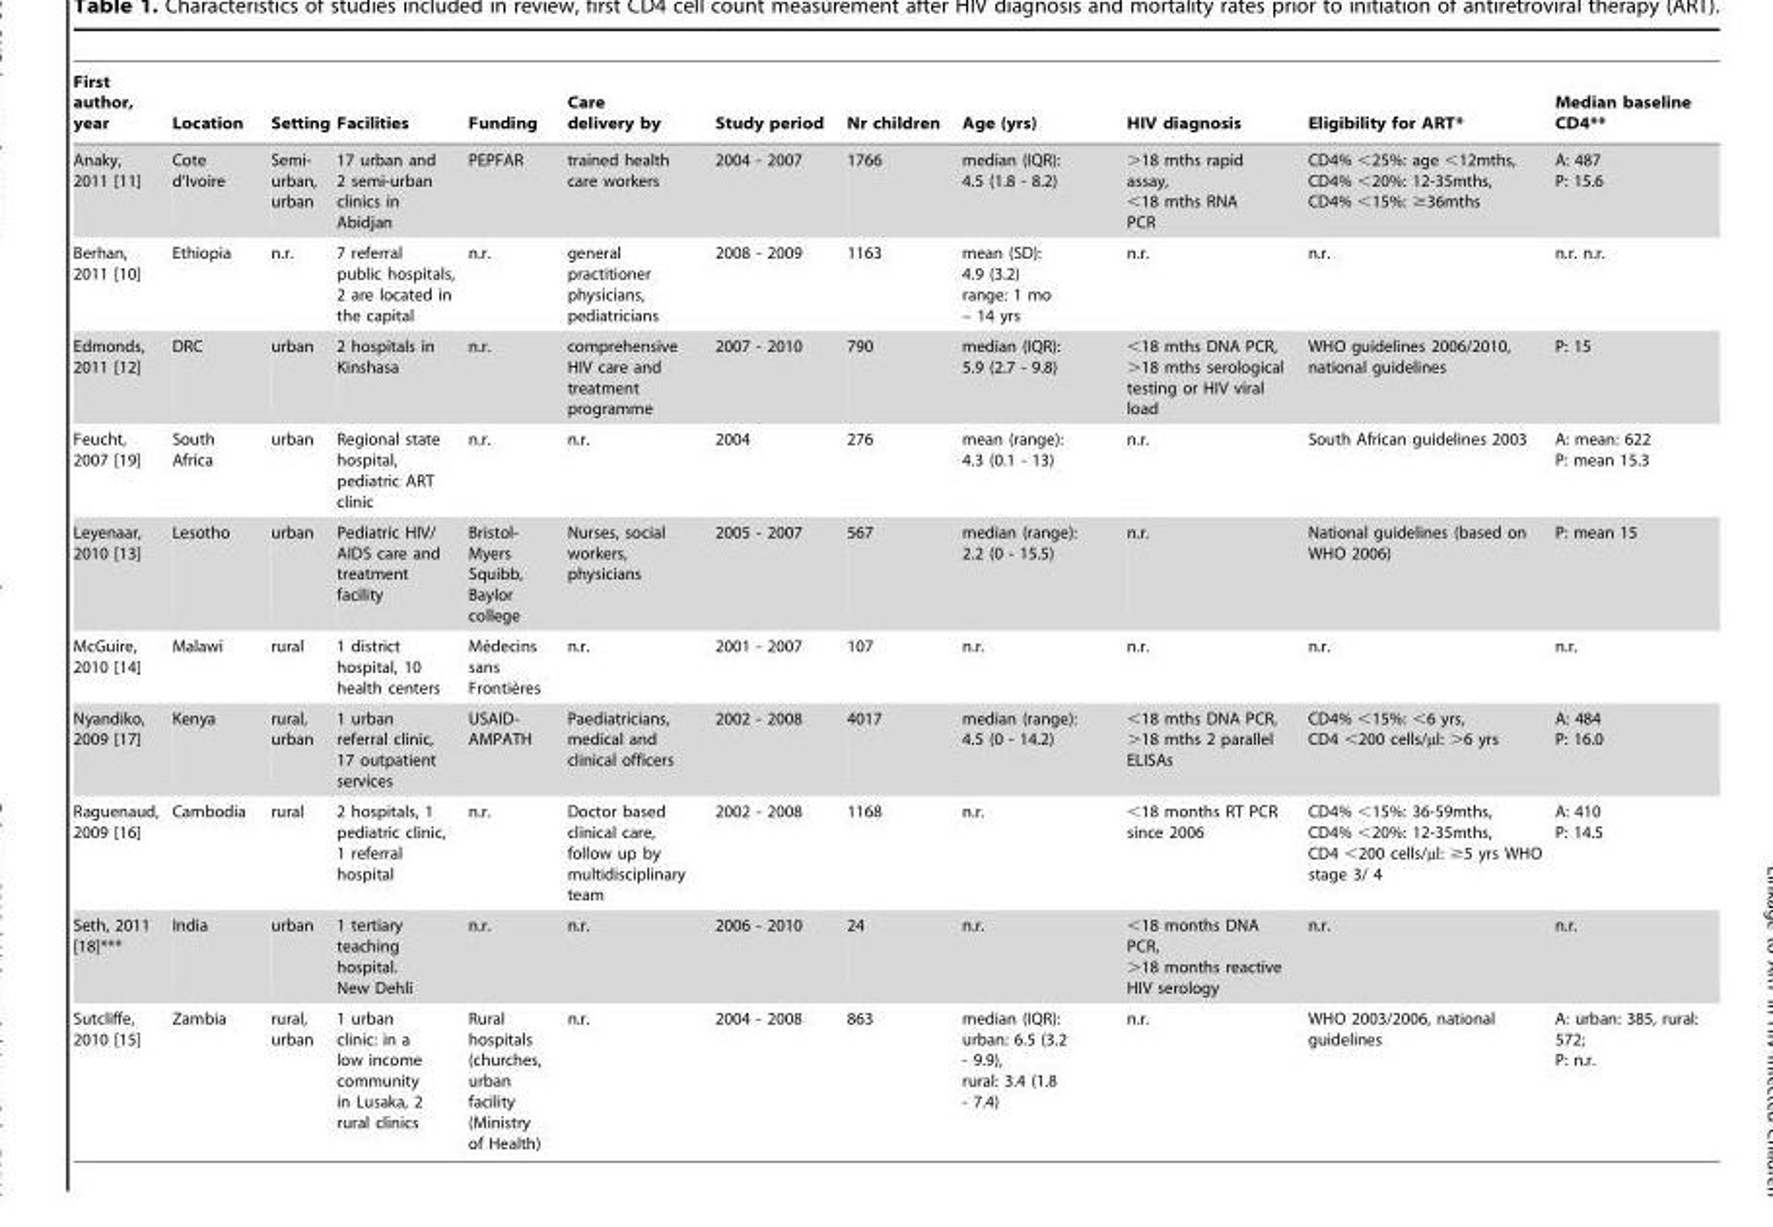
<table><thead><tr><td>First author, year</td><td>Location</td><td>Setting</td><td>Facilities</td><td>Funding</td><td>Care delivery by</td><td>Study period</td><td>Nr children</td><td>Age (yrs)</td><td>HIV diagnosis</td><td>Eligibility for ART*</td><td>Median baseline CD4**</td></tr></thead><tbody><tr><td>Anaky, 2011 [11]</td><td>Cote d’Ivoire</td><td>Semi- urban, urban</td><td>17 urban and 2 semi-urban clinics in Abidjan</td><td>PEPFAR</td><td>trained health care workers</td><td>2004 - 2007</td><td>1766</td><td>median (IQR): 4.5 (1.8 - 8.2)</td><td>&gt;18 mths rapid assay, &lt;18 mths RNA PCR</td><td>CD4% &lt;25%: age &lt;12mths, CD4% &lt;20%: 12-35mths, CD4% &lt;15%: ≥36mths</td><td>A: 487 P: 15.6</td></tr><tr><td>Berhan, 2011 [10]</td><td>Ethiopia</td><td>n.r.</td><td>7 referral public hospitals, 2 are located in the capital</td><td>n.r.</td><td>general practitioner physicians, pediatricians</td><td>2008 - 2009</td><td>1163</td><td>mean (SD): 4.9 (3.2) range: 1 mo – 14 yrs</td><td>n.r.</td><td>n.r.</td><td>n.r. n.r.</td></tr><tr><td>Edmonds, 2011 [12]</td><td>DRC</td><td>urban</td><td>2 hospitals in Kinshasa</td><td>n.r.</td><td>comprehensive HIV care and treatment programme</td><td>2007 - 2010</td><td>790</td><td>median (IQR): 5.9 (2.7 - 9.8)</td><td>&lt;18 mths DNA PCR, &gt;18 mths serological testing or HIV viral load</td><td>WHO guidelines 2006/2010, national guidelines</td><td>P: 15</td></tr><tr><td>Feucht, 2007 [19]</td><td>South Africa</td><td>urban</td><td>Regional state hospital, pediatric ART clinic</td><td>n.r.</td><td>n.r.</td><td>2004</td><td>276</td><td>mean (range): 4.3 (0.1 - 13)</td><td>n.r.</td><td>South African guidelines 2003</td><td>A: mean: 622 P: mean 15.3</td></tr><tr><td>Leyenaar, 2010 [13]</td><td>Lesotho</td><td>urban</td><td>Pediatric HIV/ AIDS care and treatment facility</td><td>Bristol- Myers Squibb, Baylor college</td><td>Nurses, social workers, physicians</td><td>2005 - 2007</td><td>567</td><td>median (range): 2.2 (0 - 15.5)</td><td>n.r.</td><td>National guidelines (based on WHO 2006)</td><td>P: mean 15</td></tr><tr><td>McGuire, 2010 [14]</td><td>Malawi</td><td>rural</td><td>1 district hospital, 10 health centers</td><td>Me´decins sans Frontie`res</td><td>n.r.</td><td>2001 - 2007</td><td>107</td><td>n.r.</td><td>n.r.</td><td>n.r.</td><td>n.r.</td></tr><tr><td>Nyandiko, 2009 [17]</td><td>Kenya</td><td>rural, urban</td><td>1 urban referral clinic, 17 outpatient services</td><td>USAID- AMPATH</td><td>Paediatricians, medical and clinical officers</td><td>2002 - 2008</td><td>4017</td><td>median (range): 4.5 (0 - 14.2)</td><td>&lt;18 mths DNA PCR, &gt;18 mths 2 parallel ELISAs</td><td>CD4% &lt;15%: &lt;6 yrs, CD4 &lt;200 cells/µl: &gt;6 yrs</td><td>A: 484 P: 16.0</td></tr><tr><td>Raguenaud, 2009 [16]</td><td>Cambodia</td><td>rural</td><td>2 hospitals, 1 pediatric clinic, 1 referral hospital</td><td>n.r.</td><td>Doctor based clinical care, follow up by multidisciplinary team</td><td>2002 - 2008</td><td>1168</td><td>n.r.</td><td>&lt;18 months RT PCR since 2006</td><td>CD4% &lt;15%: 36-59mths, CD4% &lt;20%: 12-35mths, CD4 &lt;200 cells/µl: ≥5 yrs WHO stage 3/ 4</td><td>A: 410 P: 14.5</td></tr><tr><td>Seth, 2011 [18]***</td><td>India</td><td>urban</td><td>1 tertiary teaching hospital. New Dehli</td><td>n.r.</td><td>n.r.</td><td>2006 - 2010</td><td>24</td><td>n.r.</td><td>&lt;18 months DNA PCR, &gt;18 months reactive HIV serology</td><td>n.r.</td><td>n.r.</td></tr><tr><td>Sutcliffe, 2010 [15]</td><td>Zambia</td><td>rural, urban</td><td>1 urban clinic: in a low income community in Lusaka, 2 rural clinics</td><td>Rural hospitals (churches, urban facility (Ministry of Health)</td><td>n.r.</td><td>2004 - 2008</td><td>863</td><td>median (IQR): urban: 6.5 (3.2 - 9.9), rural: 3.4 (1.8 - 7.4)</td><td>n.r.</td><td>WHO 2003/2006, national guidelines</td><td>A: urban: 385, rural: 572; P: n.r.</td></tr></tbody></table>